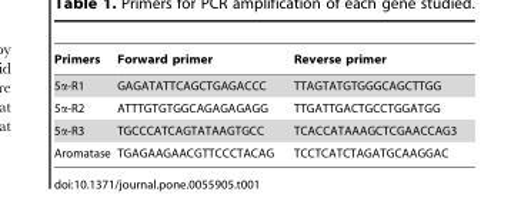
<table><thead><tr><td>Primers</td><td>Forward primer</td><td>Reverse primer</td></tr></thead><tbody><tr><td>5α-R1</td><td>GAGATATTCAGCTGAGACCC</td><td>TTAGTATGTGGGCAGCTTGG</td></tr><tr><td>5α-R2</td><td>ATTTGTGTGGCAGAGAGAGG</td><td>TTGATTGACTGCCTGGATGG</td></tr><tr><td>5α-R3</td><td>TGCCCATCAGTATAAGTGCC</td><td>TCACCATAAAGCTCGAACCAG3</td></tr><tr><td>Aromatase</td><td>TGAGAAGAACGTTCCCTACAG</td><td>TCCTCATCTAGATGCAAGGAC</td></tr></tbody></table>